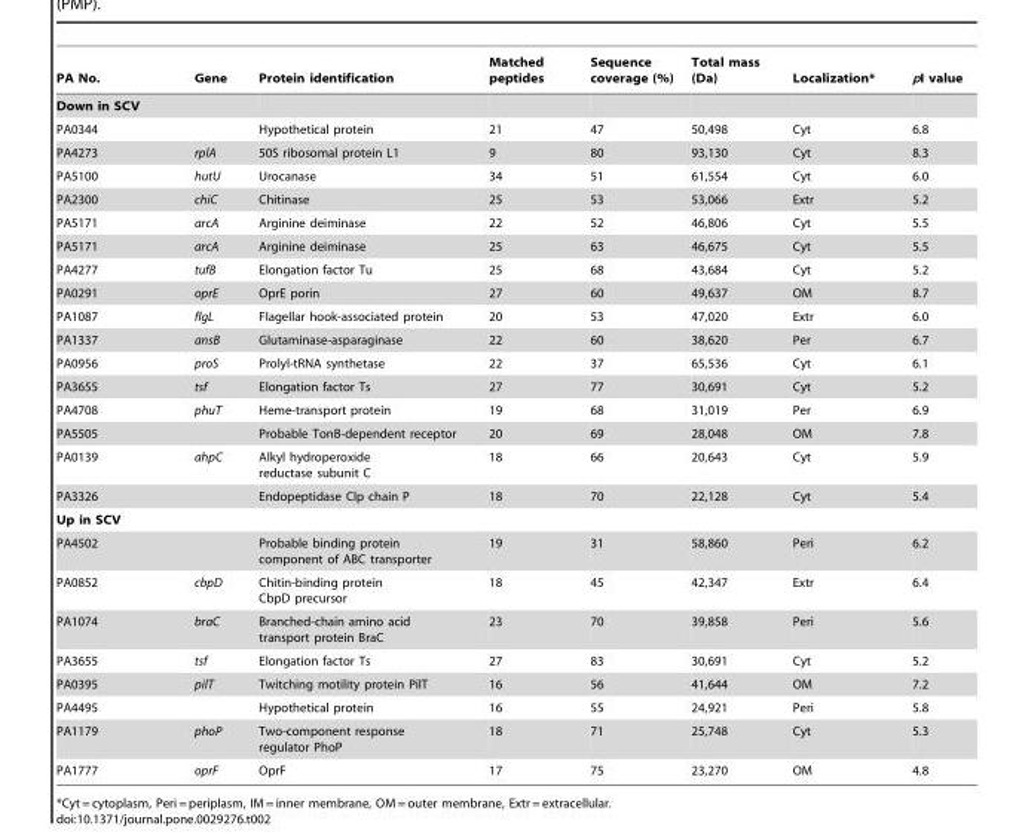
<table><thead><tr><td>PA No.</td><td>Gene</td><td>Protein identification</td><td>Matched peptides</td><td>Sequence coverage (%)</td><td>Total mass (Da)</td><td>Localization*</td><td>pI value</td></tr></thead><tbody><tr><td colspan="8">Down in SCV</td></tr><tr><td>PA0344</td><td></td><td>Hypothetical protein</td><td>21</td><td>47</td><td>50,498</td><td>Cyt</td><td>6.8</td></tr><tr><td>PA4273</td><td>rplA</td><td>50S ribosomal protein L1</td><td>9</td><td>80</td><td>93,130</td><td>Cyt</td><td>8.3</td></tr><tr><td>PA5100</td><td>hutU</td><td>Urocanase</td><td>34</td><td>51</td><td>61,554</td><td>Cyt</td><td>6.0</td></tr><tr><td>PA2300</td><td>chiC</td><td>Chitinase</td><td>25</td><td>53</td><td>53,066</td><td>Extr</td><td>5.2</td></tr><tr><td>PA5171</td><td>arcA</td><td>Arginine deiminase</td><td>22</td><td>52</td><td>46,806</td><td>Cyt</td><td>5.5</td></tr><tr><td>PA5171</td><td>arcA</td><td>Arginine deiminase</td><td>25</td><td>63</td><td>46,675</td><td>Cyt</td><td>5.5</td></tr><tr><td>PA4277</td><td>tufB</td><td>Elongation factor Tu</td><td>25</td><td>68</td><td>43,684</td><td>Cyt</td><td>5.2</td></tr><tr><td>PA0291</td><td>oprE</td><td>OprE porin</td><td>27</td><td>60</td><td>49,637</td><td>OM</td><td>8.7</td></tr><tr><td>PA1087</td><td>flgL</td><td>Flagellar hook-associated protein</td><td>20</td><td>53</td><td>47,020</td><td>Extr</td><td>6.0</td></tr><tr><td>PA1337</td><td>ansB</td><td>Glutaminase-asparaginase</td><td>22</td><td>60</td><td>38,620</td><td>Per</td><td>6.7</td></tr><tr><td>PA0956</td><td>proS</td><td>Prolyl-tRNA synthetase</td><td>22</td><td>37</td><td>65,536</td><td>Cyt</td><td>6.1</td></tr><tr><td>PA3655</td><td>tsf</td><td>Elongation factor Ts</td><td>27</td><td>77</td><td>30,691</td><td>Cyt</td><td>5.2</td></tr><tr><td>PA4708</td><td>phuT</td><td>Heme-transport protein</td><td>19</td><td>68</td><td>31,019</td><td>Per</td><td>6.9</td></tr><tr><td>PA5505</td><td></td><td>Probable TonB-dependent receptor</td><td>20</td><td>69</td><td>28,048</td><td>OM</td><td>7.8</td></tr><tr><td>PA0139</td><td>ahpC</td><td>Alkyl hydroperoxide reductase subunit C</td><td>18</td><td>66</td><td>20,643</td><td>Cyt</td><td>5.9</td></tr><tr><td>PA3326</td><td></td><td>Endopeptidase Clp chain P</td><td>18</td><td>70</td><td>22,128</td><td>Cyt</td><td>5.4</td></tr><tr><td colspan="8">Up in SCV</td></tr><tr><td>PA4502</td><td></td><td>Probable binding protein component of ABC transporter</td><td>19</td><td>31</td><td>58,860</td><td>Peri</td><td>6.2</td></tr><tr><td>PA0852</td><td>cbpD</td><td>Chitin-binding protein CbpD precursor</td><td>18</td><td>45</td><td>42,347</td><td>Extr</td><td>6.4</td></tr><tr><td>PA1074</td><td>braC</td><td>Branched-chain amino acid transport protein BraC</td><td>23</td><td>70</td><td>39,858</td><td>Peri</td><td>5.6</td></tr><tr><td>PA3655</td><td>tsf</td><td>Elongation factor Ts</td><td>27</td><td>83</td><td>30,691</td><td>Cyt</td><td>5.2</td></tr><tr><td>PA0395</td><td>pilT</td><td>Twitching motility protein PilT</td><td>16</td><td>56</td><td>41,644</td><td>OM</td><td>7.2</td></tr><tr><td>PA4495</td><td></td><td>Hypothetical protein</td><td>16</td><td>55</td><td>24,921</td><td>Peri</td><td>5.8</td></tr><tr><td>PA1179</td><td>phoP</td><td>Two-component response regulator PhoP</td><td>18</td><td>71</td><td>25,748</td><td>Cyt</td><td>5.3</td></tr><tr><td>PA1777</td><td>oprF</td><td>OprF</td><td>17</td><td>75</td><td>23,270</td><td>OM</td><td>4.8</td></tr></tbody></table>